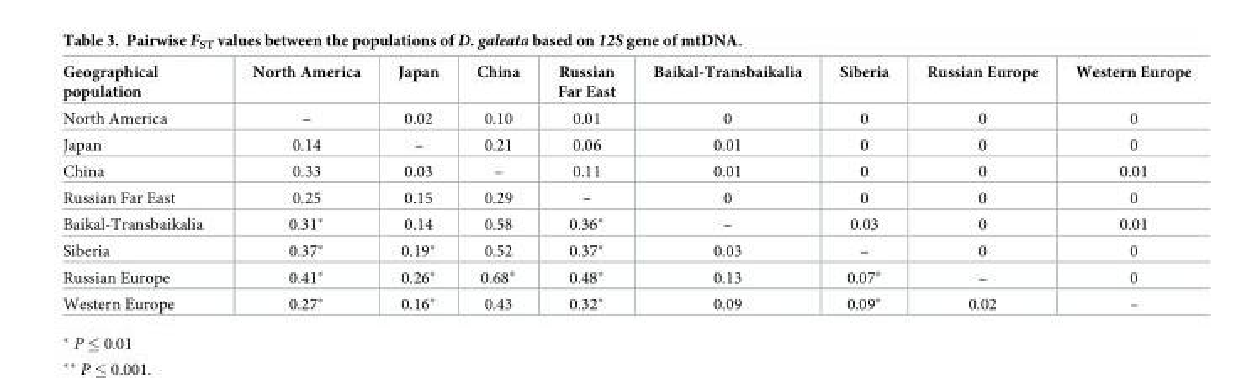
<table><thead><tr><td>Geographical population</td><td>North America</td><td>Japan</td><td>China</td><td>Russian Far East</td><td>Baikal-Transbaikalia</td><td>Siberia</td><td>Russian Europe</td><td>Western Europe</td></tr></thead><tbody><tr><td>North America</td><td>–</td><td>0.02</td><td>0.10</td><td>0.01</td><td>0</td><td>0</td><td>0</td><td>0</td></tr><tr><td>Japan</td><td>0.14</td><td>–</td><td>0.21</td><td>0.06</td><td>0.01</td><td>0</td><td>0</td><td>0</td></tr><tr><td>China</td><td>0.33</td><td>0.03</td><td>–</td><td>0.11</td><td>0.01</td><td>0</td><td>0</td><td>0.01</td></tr><tr><td>Russian Far East</td><td>0.25</td><td>0.15</td><td>0.29</td><td>–</td><td>0</td><td>0</td><td>0</td><td>0</td></tr><tr><td>Baikal-Transbaikalia</td><td>0.31*</td><td>0.14</td><td>0.58</td><td>0.36*</td><td>–</td><td>0.03</td><td>0</td><td>0.01</td></tr><tr><td>Siberia</td><td>0.37*</td><td>0.19*</td><td>0.52</td><td>0.37*</td><td>0.03</td><td>–</td><td>0</td><td>0</td></tr><tr><td>Russian Europe</td><td>0.41*</td><td>0.26*</td><td>0.68*</td><td>0.48*</td><td>0.13</td><td>0.07*</td><td>–</td><td>0</td></tr><tr><td>Western Europe</td><td>0.27*</td><td>0.16*</td><td>0.43</td><td>0.32*</td><td>0.09</td><td>0.09*</td><td>0.02</td><td>–</td></tr></tbody></table>